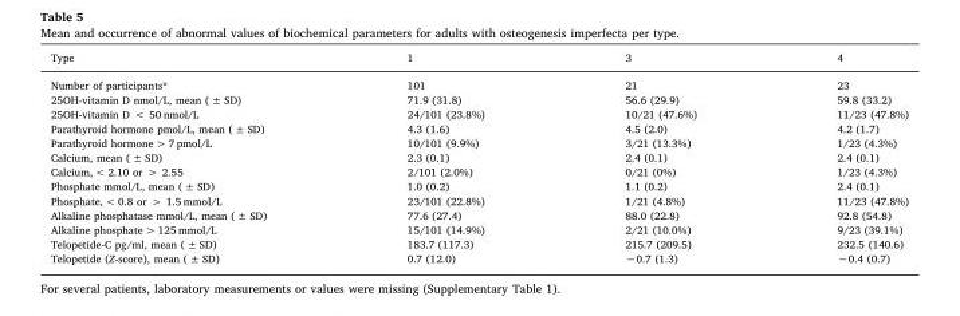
<table><thead><tr><td>Type</td><td>1</td><td>3</td><td>4</td></tr></thead><tbody><tr><td>Number of participants*</td><td>101</td><td>21</td><td>23</td></tr><tr><td>25OH-vitamin D nmol/L, mean ( ± SD)</td><td>71.9 (31.8)</td><td>56.6 (29.9)</td><td>59.8 (33.2)</td></tr><tr><td>25OH-vitamin D &lt; 50 nmol/L</td><td>24/101 (23.8%)</td><td>10/21 (47.6%)</td><td>11/23 (47.8%)</td></tr><tr><td>Parathyroid hormone pmol/L, mean ( ± SD)</td><td>4.3 (1.6)</td><td>4.5 (2.0)</td><td>4.2 (1.7)</td></tr><tr><td>Parathyroid hormone &gt; 7 pmol/L</td><td>10/101 (9.9%)</td><td>3/21 (13.3%)</td><td>1/23 (4.3%)</td></tr><tr><td>Calcium, mean ( ± SD)</td><td>2.3 (0.1)</td><td>2.4 (0.1)</td><td>2.4 (0.1)</td></tr><tr><td>Calcium, &lt; 2.10 or &gt; 2.55</td><td>2/101 (2.0%)</td><td>0/21 (0%)</td><td>1/23 (4.3%)</td></tr><tr><td>Phosphate mmol/L, mean ( ± SD)</td><td>1.0 (0.2)</td><td>1.1 (0.2)</td><td>2.4 (0.1)</td></tr><tr><td>Phosphate, &lt; 0.8 or &gt; 1.5 mmol/L</td><td>23/101 (22.8%)</td><td>1/21 (4.8%)</td><td>11/23 (47.8%)</td></tr><tr><td>Alkaline phosphatase mmol/L, mean ( ± SD)</td><td>77.6 (27.4)</td><td>88.0 (22.8)</td><td>92.8 (54.8)</td></tr><tr><td>Alkaline phosphate &gt; 125 mmol/L</td><td>15/101 (14.9%)</td><td>2/21 (10.0%)</td><td>9/23 (39.1%)</td></tr><tr><td>Telopetide-C pg/ml, mean ( ± SD)</td><td>183.7 (117.3)</td><td>215.7 (209.5)</td><td>232.5 (140.6)</td></tr><tr><td>Telopetide (Z-score), mean ( ± SD)</td><td>0.7 (12.0)</td><td>−0.7 (1.3)</td><td>−0.4 (0.7)</td></tr></tbody></table>